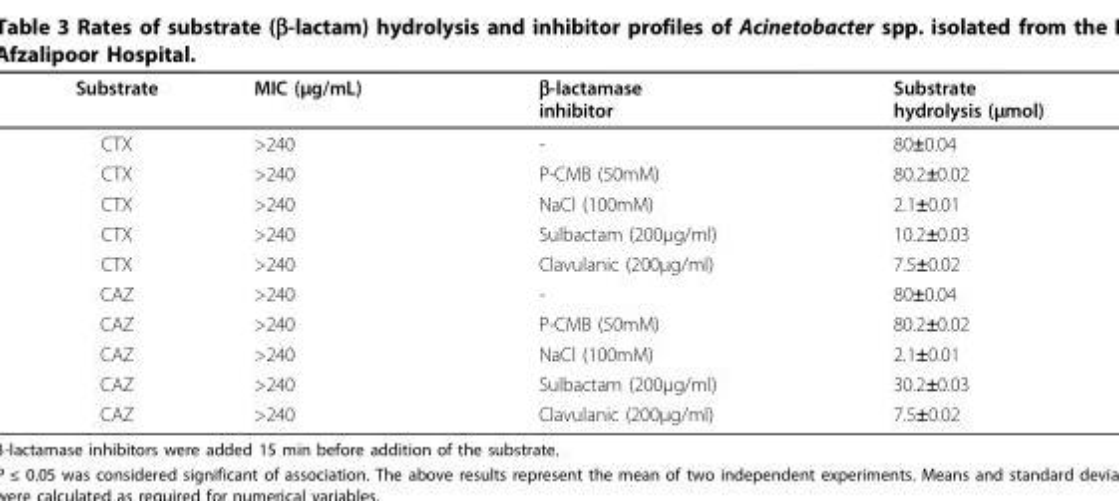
<table><thead><tr><td>Substrate</td><td>MIC (µg/mL)</td><td>β-lactamase inhibitor</td><td>Substrate hydrolysis (µmol)</td></tr></thead><tbody><tr><td>CTX</td><td>&gt;240</td><td>-</td><td>80±0.04</td></tr><tr><td>CTX</td><td>&gt;240</td><td>P-CMB (50mM)</td><td>80.2±0.02</td></tr><tr><td>CTX</td><td>&gt;240</td><td>NaCl (100mM)</td><td>2.1±0.01</td></tr><tr><td>CTX</td><td>&gt;240</td><td>Sulbactam (200µg/ml)</td><td>10.2±0.03</td></tr><tr><td>CTX</td><td>&gt;240</td><td>Clavulanic (200µg/ml)</td><td>7.5±0.02</td></tr><tr><td>CAZ</td><td>&gt;240</td><td>-</td><td>80±0.04</td></tr><tr><td>CAZ</td><td>&gt;240</td><td>P-CMB (50mM)</td><td>80.2±0.02</td></tr><tr><td>CAZ</td><td>&gt;240</td><td>NaCl (100mM)</td><td>2.1±0.01</td></tr><tr><td>CAZ</td><td>&gt;240</td><td>Sulbactam (200µg/ml)</td><td>30.2±0.03</td></tr><tr><td>CAZ</td><td>&gt;240</td><td>Clavulanic (200µg/ml)</td><td>7.5±0.02</td></tr></tbody></table>